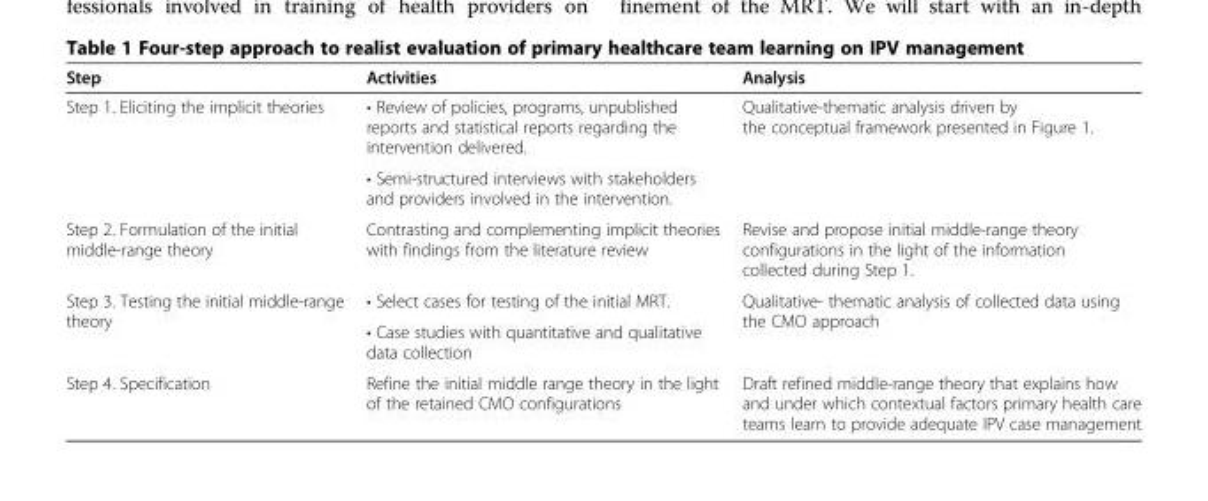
<table><thead><tr><td>Step</td><td>Activities</td><td>Analysis</td></tr></thead><tbody><tr><td rowspan="2">Step 1. Eliciting the implicit theories</td><td>• Review of policies, programs, unpublished reports and statistical reports regarding the intervention delivered.</td><td rowspan="2">Qualitative-thematic analysis driven by the conceptual framework presented in Figure 1.</td></tr><tr><td>• Semi-structured interviews with stakeholders and providers involved in the intervention.</td></tr><tr><td>Step 2. Formulation of the initial middle-range theory</td><td>Contrasting and complementing implicit theories with findings from the literature review</td><td>Revise and propose initial middle-range theory configurations in the light of the information collected during Step 1.</td></tr><tr><td rowspan="2">Step 3. Testing the initial middle-range theory</td><td>• Select cases for testing of the initial MRT.</td><td rowspan="2">Qualitative- thematic analysis of collected data using the CMO approach</td></tr><tr><td>• Case studies with quantitative and qualitative data collection</td></tr><tr><td>Step 4. Specification</td><td>Refine the initial middle range theory in the light of the retained CMO configurations</td><td>Draft refined middle-range theory that explains how and under which contextual factors primary health care teams learn to provide adequate IPV case management</td></tr></tbody></table>